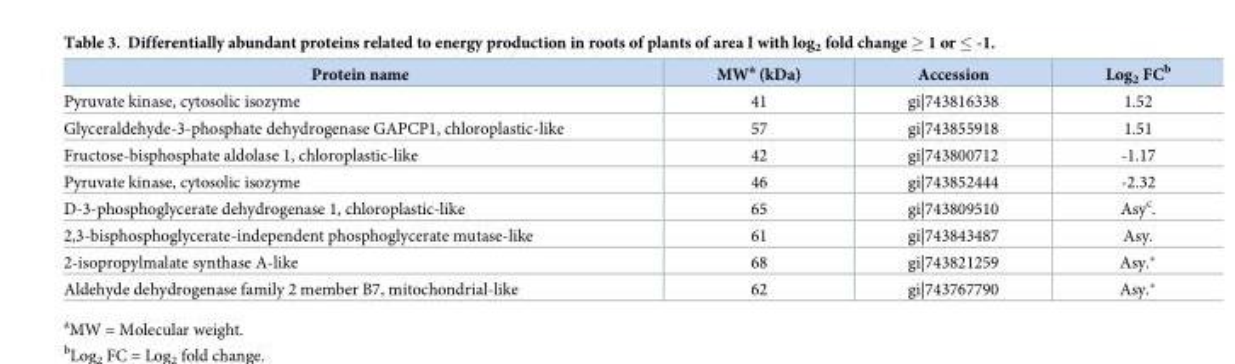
<table><thead><tr><td>Protein name</td><td>MW<sup>a</sup> (kDa)</td><td>Accession</td><td>Log<sub>2</sub> FC<sup>b</sup></td></tr></thead><tbody><tr><td>Pyruvate kinase, cytosolic isozyme</td><td>41</td><td>gi|743816338</td><td>1.52</td></tr><tr><td>Glyceraldehyde-3-phosphate dehydrogenase GAPCP1, chloroplastic-like</td><td>57</td><td>gi|743855918</td><td>1.51</td></tr><tr><td>Fructose-bisphosphate aldolase 1, chloroplastic-like</td><td>42</td><td>gi|743800712</td><td>-1.17</td></tr><tr><td>Pyruvate kinase, cytosolic isozyme</td><td>46</td><td>gi|743852444</td><td>-2.32</td></tr><tr><td>D-3-phosphoglycerate dehydrogenase 1, chloroplastic-like</td><td>65</td><td>gi|743809510</td><td>Asy<sup>c</sup>.</td></tr><tr><td>2,3-bisphosphoglycerate-independent phosphoglycerate mutase-like</td><td>61</td><td>gi|743843487</td><td>Asy.</td></tr><tr><td>2-isopropylmalate synthase A-like</td><td>68</td><td>gi|743821259</td><td>Asy.*</td></tr><tr><td>Aldehyde dehydrogenase family 2 member B7, mitochondrial-like</td><td>62</td><td>gi|743767790</td><td>Asy.*</td></tr></tbody></table>